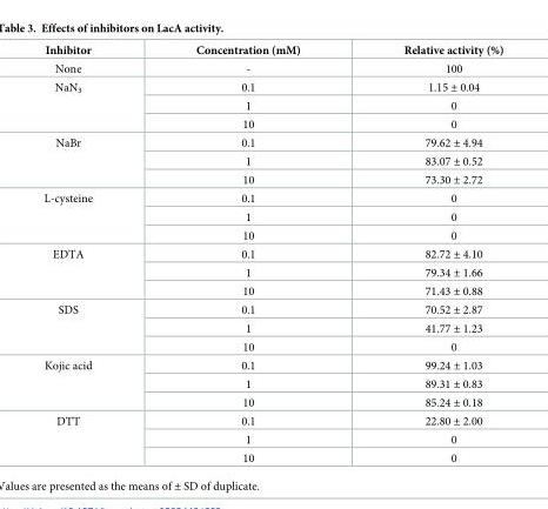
<table><thead><tr><td>Inhibitor</td><td>Concentration (mM)</td><td>Relative activity (%)</td></tr></thead><tbody><tr><td>None</td><td>-</td><td>100</td></tr><tr><td rowspan="3">NaN<sub>3</sub></td><td>0.1</td><td>1.15 ± 0.04</td></tr><tr><td>1</td><td>0</td></tr><tr><td>10</td><td>0</td></tr><tr><td rowspan="3">NaBr</td><td>0.1</td><td>79.62 ± 4.94</td></tr><tr><td>1</td><td>83.07 ± 0.52</td></tr><tr><td>10</td><td>73.30 ± 2.72</td></tr><tr><td rowspan="3">L-cysteine</td><td>0.1</td><td>0</td></tr><tr><td>1</td><td>0</td></tr><tr><td>10</td><td>0</td></tr><tr><td rowspan="3">EDTA</td><td>0.1</td><td>82.72 ± 4.10</td></tr><tr><td>1</td><td>79.34 ± 1.66</td></tr><tr><td>10</td><td>71.43 ± 0.88</td></tr><tr><td rowspan="3">SDS</td><td>0.1</td><td>70.52 ± 2.87</td></tr><tr><td>1</td><td>41.77 ± 1.23</td></tr><tr><td>10</td><td>0</td></tr><tr><td rowspan="3">Kojic acid</td><td>0.1</td><td>99.24 ± 1.03</td></tr><tr><td>1</td><td>89.31 ± 0.83</td></tr><tr><td>10</td><td>85.24 ± 0.18</td></tr><tr><td rowspan="3">DTT</td><td>0.1</td><td>22.80 ± 2.00</td></tr><tr><td>1</td><td>0</td></tr><tr><td>10</td><td>0</td></tr></tbody></table>